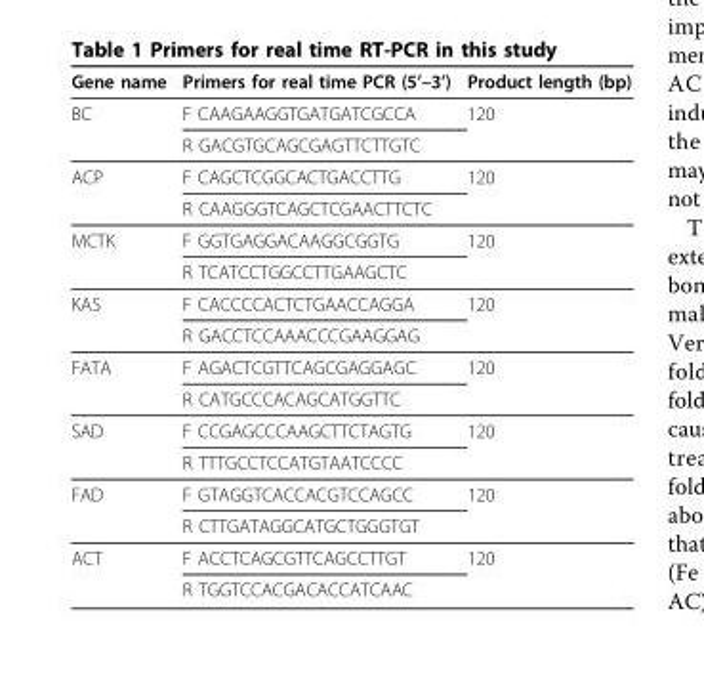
<table><thead><tr><td>Gene name</td><td>Primers for real time PCR (5’–3’)</td><td>Product length (bp)</td></tr></thead><tbody><tr><td rowspan="2">BC</td><td>F CAAGAAGGTGATGATCGCCA</td><td>120</td></tr><tr><td>R GACGTGCAGCGAGTTCTTGTC</td><td></td></tr><tr><td rowspan="2">ACP</td><td>F CAGCTCGGCACTGACCTTG</td><td>120</td></tr><tr><td>R CAAGGGTCAGCTCGAACTTCTC</td><td></td></tr><tr><td rowspan="2">MCTK</td><td>F GGTGAGGACAAGGCGGTG</td><td>120</td></tr><tr><td>R TCATCCTGGCCTTGAAGCTC</td><td></td></tr><tr><td rowspan="2">KAS</td><td>F CACCCCACTCTGAACCAGGA</td><td>120</td></tr><tr><td>R GACCTCCAAACCCGAAGGAG</td><td></td></tr><tr><td rowspan="2">FATA</td><td>F AGACTCGTTCAGCGAGGAGC</td><td>120</td></tr><tr><td>R CATGCCCACAGCATGGTTC</td><td></td></tr><tr><td rowspan="2">SAD</td><td>F CCGAGCCCAAGCTTCTAGTG</td><td>120</td></tr><tr><td>R TTTGCCTCCATGTAATCCCC</td><td></td></tr><tr><td rowspan="2">FAD</td><td>F GTAGGTCACCACGTCCAGCC</td><td>120</td></tr><tr><td>R CTTGATAGGCATGCTGGGTGT</td><td></td></tr><tr><td rowspan="2">ACT</td><td>F ACCTCAGCGTTCAGCCTTGT</td><td>120</td></tr><tr><td>R TGGTCCACGACACCATCAAC</td><td></td></tr></tbody></table>